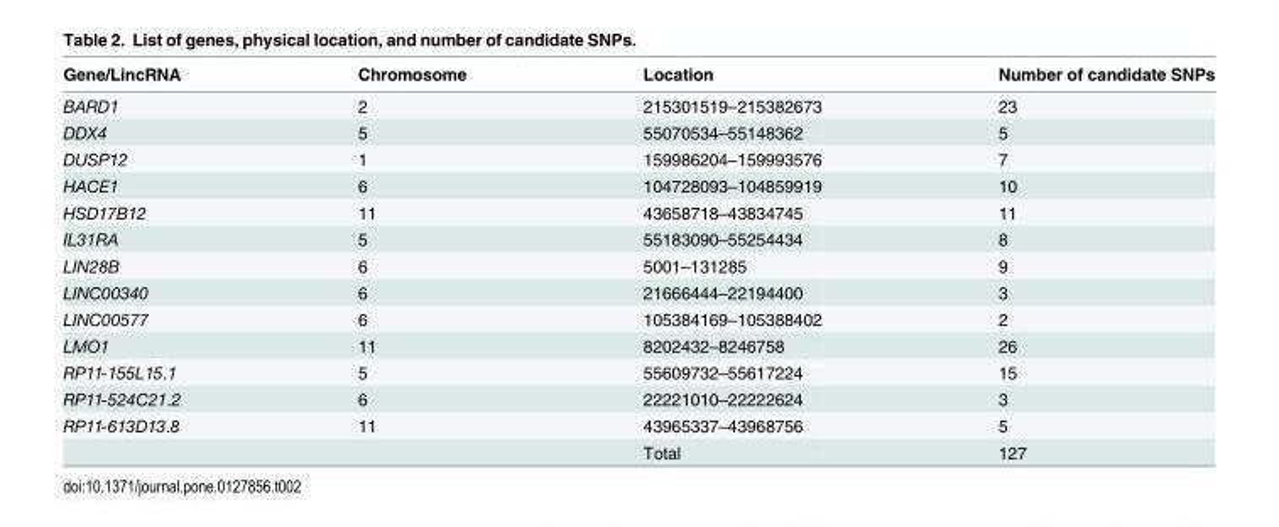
<table><thead><tr><td>Gene/LincRNA</td><td>Chromosome</td><td>Location</td><td>Number of candidate SNPs</td></tr></thead><tbody><tr><td>BARD1</td><td>2</td><td>215301519–215382673</td><td>23</td></tr><tr><td>DDX4</td><td>5</td><td>55070534–55148362</td><td>5</td></tr><tr><td>DUSP12</td><td>1</td><td>159986204–159993576</td><td>7</td></tr><tr><td>HACE1</td><td>6</td><td>104728093–104859919</td><td>10</td></tr><tr><td>HSD17B12</td><td>11</td><td>43658718–43834745</td><td>11</td></tr><tr><td>IL31RA</td><td>5</td><td>55183090–55254434</td><td>8</td></tr><tr><td>LIN28B</td><td>6</td><td>5001–131285</td><td>9</td></tr><tr><td>LINC00340</td><td>6</td><td>21666444–22194400</td><td>3</td></tr><tr><td>LINC00577</td><td>6</td><td>105384169–105388402</td><td>2</td></tr><tr><td>LMO1</td><td>11</td><td>8202432–8246758</td><td>26</td></tr><tr><td>RP11-155L15.1</td><td>5</td><td>55609732–55617224</td><td>15</td></tr><tr><td>RP11-524C21.2</td><td>6</td><td>22221010–22222624</td><td>3</td></tr><tr><td rowspan="2">RP11-613D13.8</td><td>11</td><td>43965337–43968756</td><td>5</td></tr><tr><td></td><td>Total</td><td>127</td></tr></tbody></table>